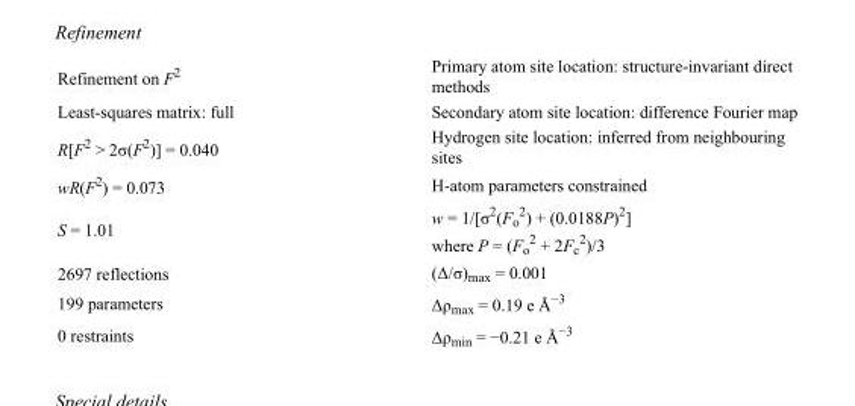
<table><tbody><tr><td>Refinement on F<sup>2</sup></td><td>Primary atom site location: structure-invariant direct methods</td></tr><tr><td>Least-squares matrix: full</td><td>Secondary atom site location: difference Fourier map</td></tr><tr><td>R[F<sup>2</sup> &gt; 2σ(F<sup>2</sup>)] = 0.040</td><td>Hydrogen site location: inferred from neighbouring sites</td></tr><tr><td>wR(F<sup>2</sup>) = 0.073</td><td>H-atom parameters constrained</td></tr><tr><td>S = 1.01</td><td>w = 1/[σ<sup>2</sup>(F<sub>o</sub> <sup>2</sup>) + (0.0188P)<sup>2</sup>] where P = (F<sub>o</sub> <sup>2</sup> + 2F<sub>c</sub> <sup>2</sup>)/3</td></tr><tr><td>2697 reflections</td><td>(Δ/σ)<sub>max</sub> = 0.001</td></tr><tr><td>199 parameters</td><td>Δρ<sub>max</sub> = 0.19 e Å<sup>−3</sup></td></tr><tr><td>0 restraints</td><td>Δρ<sub>min</sub> = −0.21 e Å<sup>−3</sup></td></tr></tbody></table>